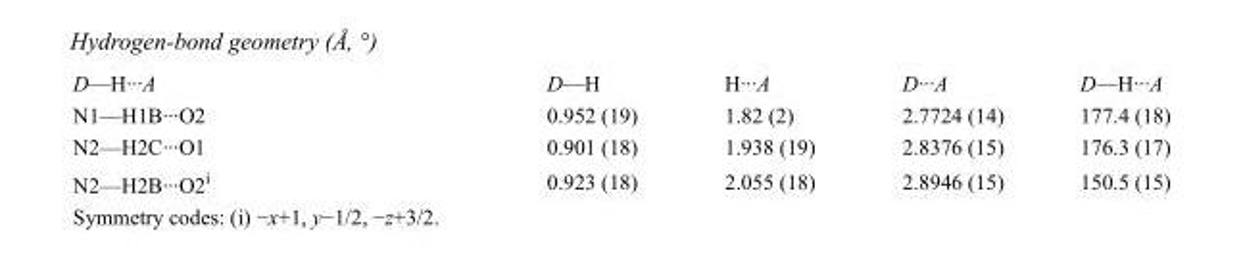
<table><tbody><tr><td>D—H···A</td><td>D—H</td><td>H···A</td><td>D···A</td><td>D—H···A</td></tr><tr><td>N1—H1B···O2</td><td>0.952 (19)</td><td>1.82 (2)</td><td>2.7724 (14)</td><td>177.4 (18)</td></tr><tr><td>N2—H2C···O1</td><td>0.901 (18)</td><td>1.938 (19)</td><td>2.8376 (15)</td><td>176.3 (17)</td></tr><tr><td>N2—H2B···O2<sup>i</sup></td><td>0.923 (18)</td><td>2.055 (18)</td><td>2.8946 (15)</td><td>150.5 (15)</td></tr></tbody></table>